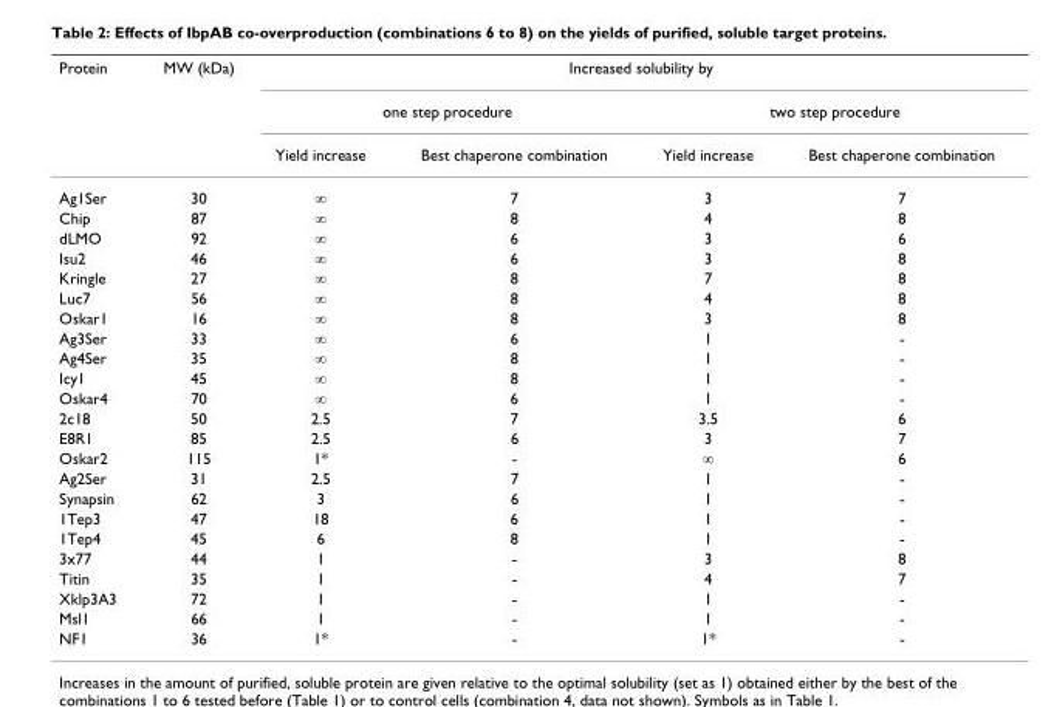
<table><thead><tr><td rowspan="3">Protein</td><td rowspan="3">MW (kDa)</td><td colspan="4">Increased solubility by</td></tr><tr><td colspan="2">one step procedure</td><td colspan="2">two step procedure</td></tr><tr><td>Yield increase</td><td>Best chaperone combination</td><td>Yield increase</td><td>Best chaperone combination</td></tr></thead><tbody><tr><td>Ag1Ser</td><td>30</td><td>∞</td><td>7</td><td>3</td><td>7</td></tr><tr><td>Chip</td><td>87</td><td>∞</td><td>8</td><td>4</td><td>8</td></tr><tr><td>dLMO</td><td>92</td><td>∞</td><td>6</td><td>3</td><td>6</td></tr><tr><td>Isu2</td><td>46</td><td>∞</td><td>6</td><td>3</td><td>8</td></tr><tr><td>Kringle</td><td>27</td><td>∞</td><td>8</td><td>7</td><td>8</td></tr><tr><td>Luc7</td><td>56</td><td>∞</td><td>8</td><td>4</td><td>8</td></tr><tr><td>Oskar1</td><td>16</td><td>∞</td><td>8</td><td>3</td><td>8</td></tr><tr><td>Ag3Ser</td><td>33</td><td>∞</td><td>6</td><td>1</td><td>-</td></tr><tr><td>Ag4Ser</td><td>35</td><td>∞</td><td>8</td><td>1</td><td>-</td></tr><tr><td>Icy1</td><td>45</td><td>∞</td><td>8</td><td>1</td><td>-</td></tr><tr><td>Oskar4</td><td>70</td><td>∞</td><td>6</td><td>1</td><td>-</td></tr><tr><td>2c18</td><td>50</td><td>2.5</td><td>7</td><td>3.5</td><td>6</td></tr><tr><td>E8R1</td><td>85</td><td>2.5</td><td>6</td><td>3</td><td>7</td></tr><tr><td>Oskar2</td><td>115</td><td>1*</td><td>-</td><td>∞</td><td>6</td></tr><tr><td>Ag2Ser</td><td>31</td><td>2.5</td><td>7</td><td>1</td><td>-</td></tr><tr><td>Synapsin</td><td>62</td><td>3</td><td>6</td><td>1</td><td>-</td></tr><tr><td>1Tep3</td><td>47</td><td>18</td><td>6</td><td>1</td><td>-</td></tr><tr><td>1Tep4</td><td>45</td><td>6</td><td>8</td><td>1</td><td>-</td></tr><tr><td>3x77</td><td>44</td><td>1</td><td>-</td><td>3</td><td>8</td></tr><tr><td>Titin</td><td>35</td><td>1</td><td>-</td><td>4</td><td>7</td></tr><tr><td>Xklp3A3</td><td>72</td><td>1</td><td>-</td><td>1</td><td>-</td></tr><tr><td>Msl1</td><td>66</td><td>1</td><td>-</td><td>1</td><td>-</td></tr><tr><td>NF1</td><td>36</td><td>1*</td><td>-</td><td>1*</td><td>-</td></tr></tbody></table>